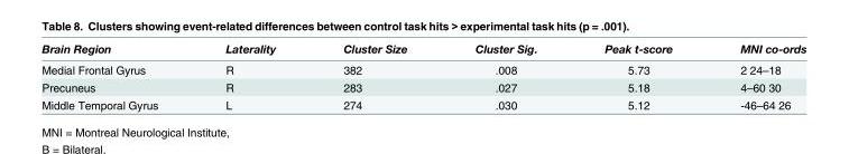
<table><thead><tr><td>Brain Region</td><td>Laterality</td><td>Cluster Size</td><td>Cluster Sig.</td><td>Peak t-score</td><td>MNI co-ords</td></tr></thead><tbody><tr><td>Medial Frontal Gyrus</td><td>R</td><td>382</td><td>.008</td><td>5.73</td><td>2 24–18</td></tr><tr><td>Precuneus</td><td>R</td><td>283</td><td>.027</td><td>5.18</td><td>4–60 30</td></tr><tr><td>Middle Temporal Gyrus</td><td>L</td><td>274</td><td>.030</td><td>5.12</td><td>-46–64 26</td></tr></tbody></table>